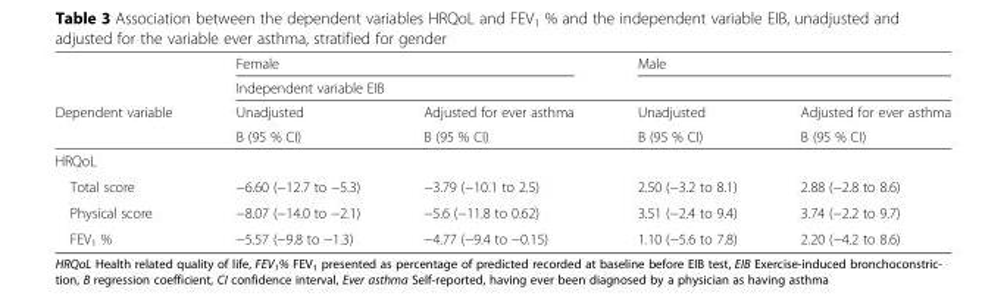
<table><thead><tr><td rowspan="4">Dependent variable</td><td colspan="2">Female</td><td colspan="2">Male</td></tr><tr><td colspan="4">Independent variable EIB</td></tr><tr><td rowspan="2">Unadjusted B (95 % CI)</td><td rowspan="2">Adjusted for ever asthma B (95 % CI)</td><td rowspan="2">Unadjusted B (95 % CI)</td><td rowspan="2">Adjusted for ever asthma B (95 % CI)</td></tr><tr></tr></thead><tbody><tr><td colspan="5">HRQoL</td></tr><tr><td>Total score</td><td>−6.60 (−12.7 to −5.3)</td><td>−3.79 (−10.1 to 2.5)</td><td>2.50 (−3.2 to 8.1)</td><td>2.88 (−2.8 to 8.6)</td></tr><tr><td>Physical score</td><td>−8.07 (−14.0 to −2.1)</td><td>−5.6 (−11.8 to 0.62)</td><td>3.51 (−2.4 to 9.4)</td><td>3.74 (−2.2 to 9.7)</td></tr><tr><td>FEV<sub>1</sub> %</td><td>−5.57 (−9.8 to −1.3)</td><td>−4.77 (−9.4 to −0.15)</td><td>1.10 (−5.6 to 7.8)</td><td>2.20 (−4.2 to 8.6)</td></tr></tbody></table>